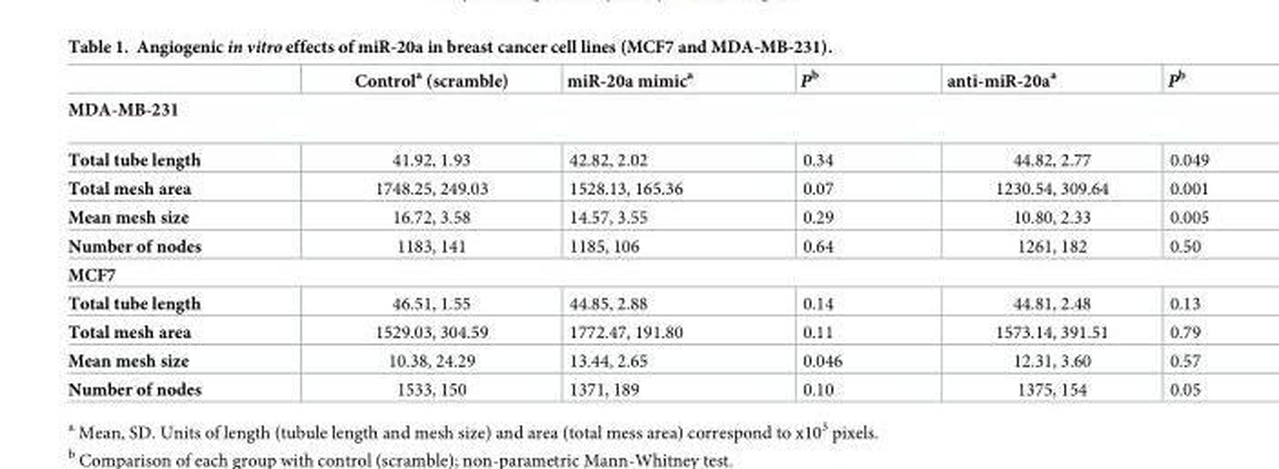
<table><thead><tr><td></td><td>Control<sup>a</sup> (scramble)</td><td>miR-20a mimic<sup>a</sup></td><td>P<sup>b</sup></td><td>anti-miR-20a<sup>a</sup></td><td>P<sup>b</sup></td></tr></thead><tbody><tr><td colspan="6">MDA-MB-231</td></tr><tr><td>Total tube length</td><td>41.92, 1.93</td><td>42.82, 2.02</td><td>0.34</td><td>44.82, 2.77</td><td>0.049</td></tr><tr><td>Total mesh area</td><td>1748.25, 249.03</td><td>1528.13, 165.36</td><td>0.07</td><td>1230.54, 309.64</td><td>0.001</td></tr><tr><td>Mean mesh size</td><td>16.72, 3.58</td><td>14.57, 3.55</td><td>0.29</td><td>10.80, 2.33</td><td>0.005</td></tr><tr><td>Number of nodes</td><td>1183, 141</td><td>1185, 106</td><td>0.64</td><td>1261, 182</td><td>0.50</td></tr><tr><td colspan="6">MCF7</td></tr><tr><td>Total tube length</td><td>46.51, 1.55</td><td>44.85, 2.88</td><td>0.14</td><td>44.81, 2.48</td><td>0.13</td></tr><tr><td>Total mesh area</td><td>1529.03, 304.59</td><td>1772.47, 191.80</td><td>0.11</td><td>1573.14, 391.51</td><td>0.79</td></tr><tr><td>Mean mesh size</td><td>10.38, 24.29</td><td>13.44, 2.65</td><td>0.046</td><td>12.31, 3.60</td><td>0.57</td></tr><tr><td>Number of nodes</td><td>1533, 150</td><td>1371, 189</td><td>0.10</td><td>1375, 154</td><td>0.05</td></tr></tbody></table>